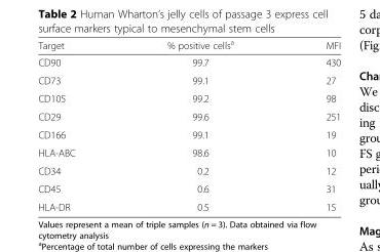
<table><thead><tr><td>Target</td><td>% positive cells<sup>a</sup></td><td>MFI</td></tr></thead><tbody><tr><td>CD90</td><td>99.7</td><td>430</td></tr><tr><td>CD73</td><td>99.1</td><td>27</td></tr><tr><td>CD105</td><td>99.2</td><td>98</td></tr><tr><td>CD29</td><td>99.6</td><td>251</td></tr><tr><td>CD166</td><td>99.1</td><td>19</td></tr><tr><td>HLA-ABC</td><td>98.6</td><td>10</td></tr><tr><td>CD34</td><td>0.2</td><td>12</td></tr><tr><td>CD45</td><td>0.6</td><td>31</td></tr><tr><td>HLA-DR</td><td>0.5</td><td>15</td></tr></tbody></table>